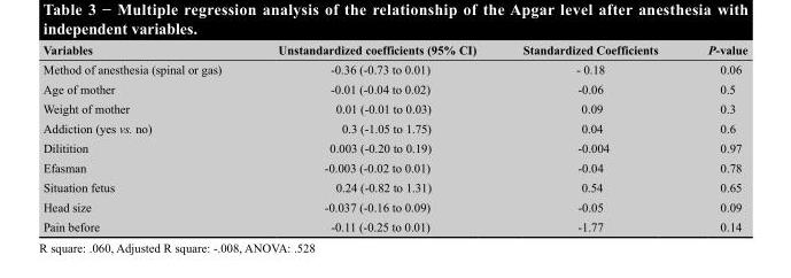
<table><thead><tr><td>Variables</td><td>Unstandardized coefficients (95% CI)</td><td>Standardized Coefficients</td><td>P-value</td></tr></thead><tbody><tr><td>Method of anesthesia (spinal or gas)</td><td>-0.36 (-0.73 to 0.01)</td><td>- 0.18</td><td>0.06</td></tr><tr><td>Age of mother</td><td>-0.01 (-0.04 to 0.02)</td><td>-0.06</td><td>0.5</td></tr><tr><td>Weight of mother</td><td>0.01 (-0.01 to 0.03)</td><td>0.09</td><td>0.3</td></tr><tr><td>Addiction (yes vs. no)</td><td>0.3 (-1.05 to 1.75)</td><td>0.04</td><td>0.6</td></tr><tr><td>Dilitition</td><td>0.003 (-0.20 to 0.19)</td><td>-0.004</td><td>0.97</td></tr><tr><td>Efasman</td><td>-0.003 (-0.02 to 0.01)</td><td>-0.04</td><td>0.78</td></tr><tr><td>Situation fetus</td><td>0.24 (-0.82 to 1.31)</td><td>0.54</td><td>0.65</td></tr><tr><td>Head size</td><td>-0.037 (-0.16 to 0.09)</td><td>-0.05</td><td>0.09</td></tr><tr><td>Pain before</td><td>-0.11 (-0.25 to 0.01)</td><td>-1.77</td><td>0.14</td></tr></tbody></table>